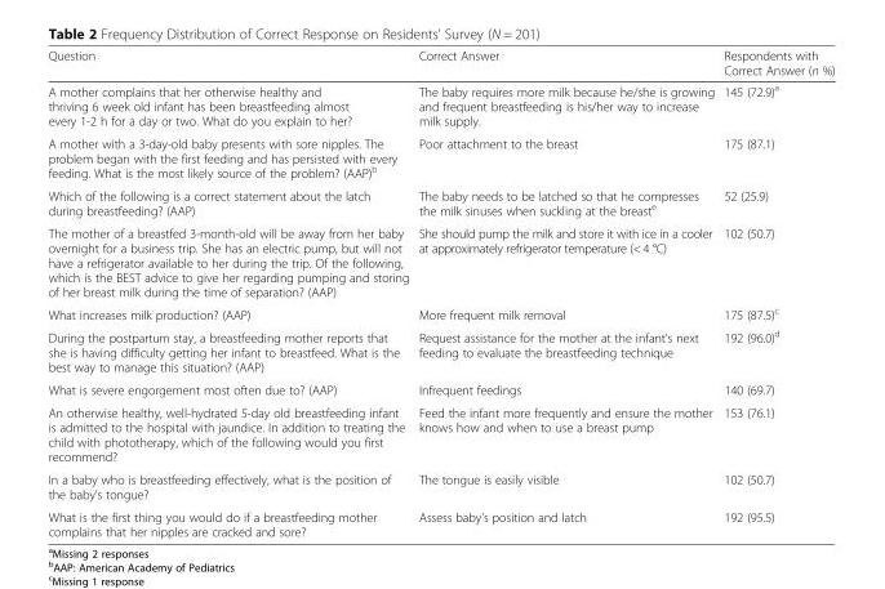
<table><thead><tr><td>Question</td><td>Correct Answer</td><td>Respondents with Correct Answer (n %)</td></tr></thead><tbody><tr><td>A mother complains that her otherwise healthy and thriving 6 week old infant has been breastfeeding almost every 1-2 h for a day or two. What do you explain to her?</td><td>The baby requires more milk because he/she is growing and frequent breastfeeding is his/her way to increase milk supply.</td><td>145 (72.9)<sup>a</sup></td></tr><tr><td>A mother with a 3-day-old baby presents with sore nipples. The problem began with the first feeding and has persisted with every feeding. What is the most likely source of the problem? (AAP)<sup>b</sup></td><td>Poor attachment to the breast</td><td>175 (87.1)</td></tr><tr><td>Which of the following is a correct statement about the latch during breastfeeding? (AAP)</td><td>The baby needs to be latched so that he compresses the milk sinuses when suckling at the breast<sup>e</sup></td><td>52 (25.9)</td></tr><tr><td>The mother of a breastfed 3-month-old will be away from her baby overnight for a business trip. She has an electric pump, but will not have a refrigerator available to her during the trip. Of the following, which is the BEST advice to give her regarding pumping and storing of her breast milk during the time of separation? (AAP)</td><td>She should pump the milk and store it with ice in a cooler at approximately refrigerator temperature (&lt; 4 °C)</td><td>102 (50.7)</td></tr><tr><td>What increases milk production? (AAP)</td><td>More frequent milk removal</td><td>175 (87.5)<sup>c</sup></td></tr><tr><td>During the postpartum stay, a breastfeeding mother reports that she is having difficulty getting her infant to breastfeed. What is the best way to manage this situation? (AAP)</td><td>Request assistance for the mother at the infant’s next feeding to evaluate the breastfeeding technique</td><td>192 (96.0)<sup>d</sup></td></tr><tr><td>What is severe engorgement most often due to? (AAP)</td><td>Infrequent feedings</td><td>140 (69.7)</td></tr><tr><td>An otherwise healthy, well-hydrated 5-day old breastfeeding infant is admitted to the hospital with jaundice. In addition to treating the child with phototherapy, which of the following would you first recommend?</td><td>Feed the infant more frequently and ensure the mother knows how and when to use a breast pump</td><td>153 (76.1)</td></tr><tr><td>In a baby who is breastfeeding effectively, what is the position of the baby’s tongue?</td><td>The tongue is easily visible</td><td>102 (50.7)</td></tr><tr><td>What is the first thing you would do if a breastfeeding mother complains that her nipples are cracked and sore?</td><td>Assess baby’s position and latch</td><td>192 (95.5)</td></tr></tbody></table>